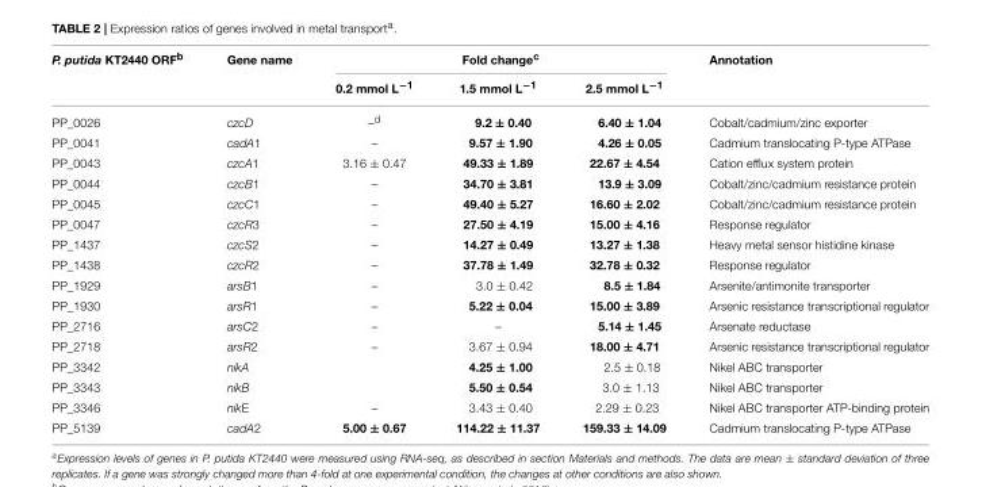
<table><thead><tr><td rowspan="2">P. putida KT2440 ORF<sup>b</sup></td><td rowspan="2">Gene name</td><td colspan="3">Fold change<sup>c</sup></td><td rowspan="2">Annotation</td></tr><tr><td>0.2 mmol L<sup>−1</sup></td><td>1.5 mmol L<sup>−1</sup></td><td>2.5 mmol L<sup>−1</sup></td></tr></thead><tbody><tr><td>PP_0026</td><td>czcD</td><td>–<sup>d</sup></td><td>9.2 ± 0.40</td><td>6.40 ± 1.04</td><td>Cobalt/cadmium/zinc exporter</td></tr><tr><td>PP_0041</td><td>cadA1</td><td>–</td><td>9.57 ± 1.90</td><td>4.26 ± 0.05</td><td>Cadmium translocating P-type ATPase</td></tr><tr><td>PP_0043</td><td>czcA1</td><td>3.16 ± 0.47</td><td>49.33 ± 1.89</td><td>22.67 ± 4.54</td><td>Cation efflux system protein</td></tr><tr><td>PP_0044</td><td>czcB1</td><td>–</td><td>34.70 ± 3.81</td><td>13.9 ± 3.09</td><td>Cobalt/zinc/cadmium resistance protein</td></tr><tr><td>PP_0045</td><td>czcC1</td><td>–</td><td>49.40 ± 5.27</td><td>16.60 ± 2.02</td><td>Cobalt/zinc/cadmium resistance protein</td></tr><tr><td>PP_0047</td><td>czcR3</td><td>–</td><td>27.50 ± 4.19</td><td>15.00 ± 4.16</td><td>Response regulator</td></tr><tr><td>PP_1437</td><td>czcS2</td><td>–</td><td>14.27 ± 0.49</td><td>13.27 ± 1.38</td><td>Heavy metal sensor histidine kinase</td></tr><tr><td>PP_1438</td><td>czcR2</td><td>–</td><td>37.78 ± 1.49</td><td>32.78 ± 0.32</td><td>Response regulator</td></tr><tr><td>PP_1929</td><td>arsB1</td><td>–</td><td>3.0 ± 0.42</td><td>8.5 ± 1.84</td><td>Arsenite/antimonite transporter</td></tr><tr><td>PP_1930</td><td>arsR1</td><td>–</td><td>5.22 ± 0.04</td><td>15.00 ± 3.89</td><td>Arsenic resistance transcriptional regulator</td></tr><tr><td>PP_2716</td><td>arsC2</td><td>–</td><td>–</td><td>5.14 ± 1.45</td><td>Arsenate reductase</td></tr><tr><td>PP_2718</td><td>arsR2</td><td>–</td><td>3.67 ± 0.94</td><td>18.00 ± 4.71</td><td>Arsenic resistance transcriptional regulator</td></tr><tr><td>PP_3342</td><td>nikA</td><td></td><td>4.25 ± 1.00</td><td>2.5 ± 0.18</td><td>Nikel ABC transporter</td></tr><tr><td>PP_3343</td><td>nikB</td><td></td><td>5.50 ± 0.54</td><td>3.0 ± 1.13</td><td>Nikel ABC transporter</td></tr><tr><td>PP_3346</td><td>nikE</td><td>–</td><td>3.43 ± 0.40</td><td>2.29 ± 0.23</td><td>Nikel ABC transporter ATP-binding protein</td></tr><tr><td>PP_5139</td><td>cadA2</td><td>5.00 ± 0.67</td><td>114.22 ± 11.37</td><td>159.33 ± 14.09</td><td>Cadmium translocating P-type ATPase</td></tr></tbody></table>